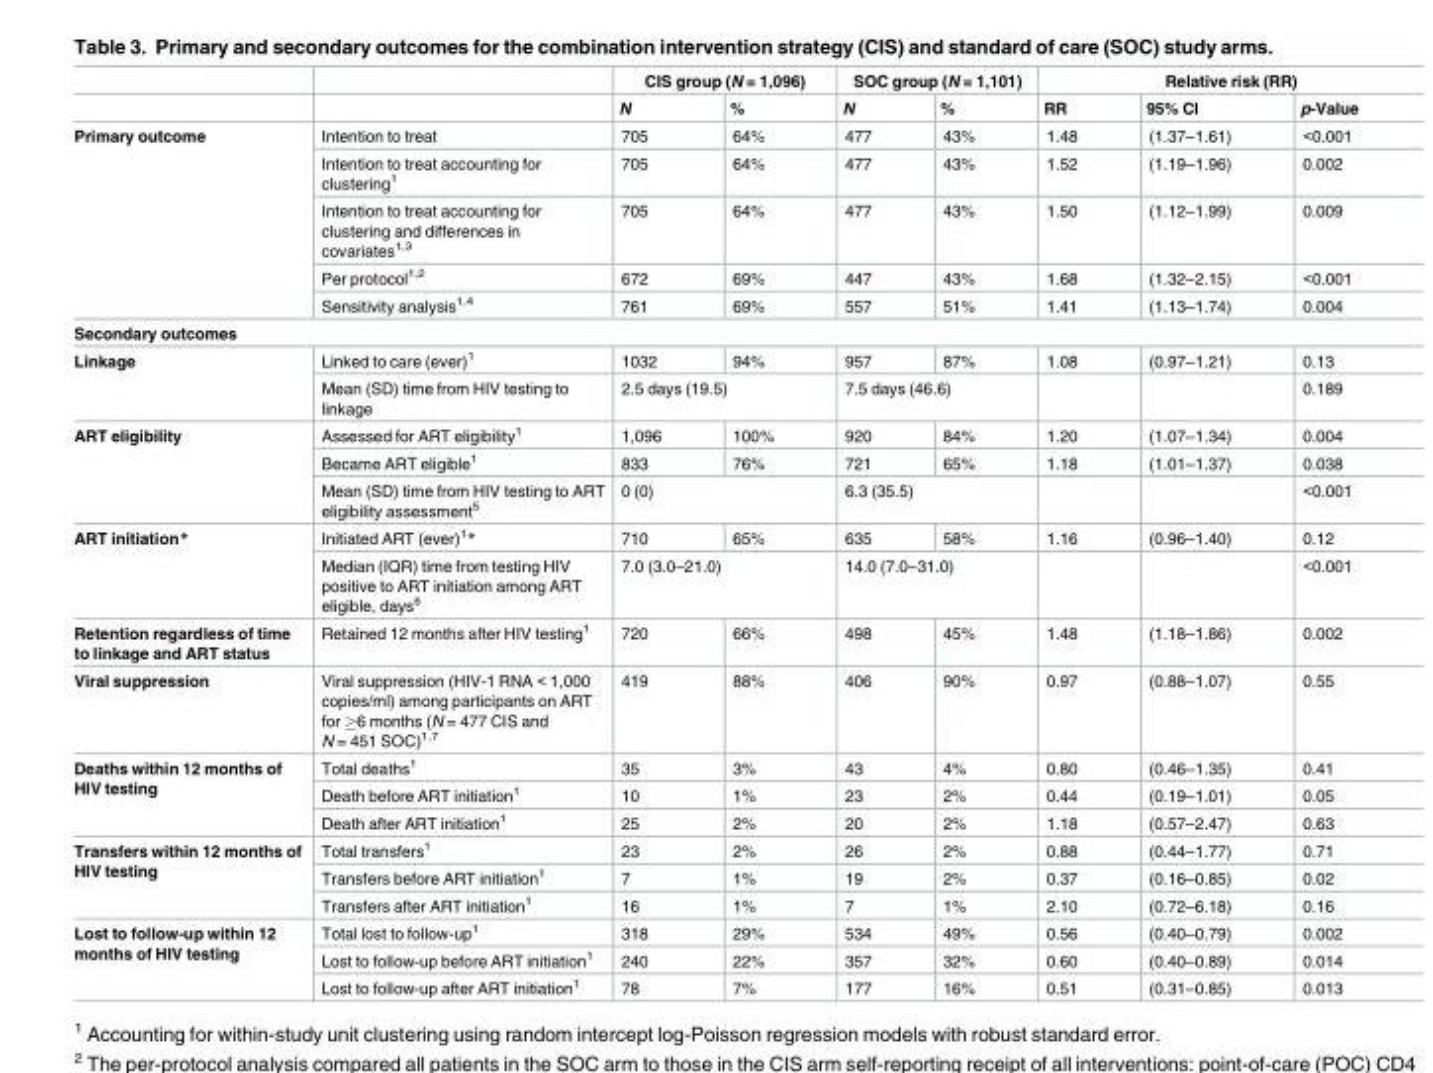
<table><thead><tr><td rowspan="2"></td><td rowspan="2"></td><td colspan="2">CIS group (N = 1,096)</td><td colspan="2">SOC group (N = 1,101)</td><td colspan="3">Relative risk (RR)</td></tr><tr><td>N</td><td>%</td><td>N</td><td>%</td><td>RR</td><td>95% CI</td><td>p-Value</td></tr></thead><tbody><tr><td rowspan="5">Primary outcome</td><td>Intention to treat</td><td>705</td><td>64%</td><td>477</td><td>43%</td><td>1.48</td><td>(1.37–1.61)</td><td>&lt;0.001</td></tr><tr><td>Intention to treat accounting for clustering<sup>1</sup></td><td>705</td><td>64%</td><td>477</td><td>43%</td><td>1.52</td><td>(1.19–1.96)</td><td>0.002</td></tr><tr><td>Intention to treat accounting for clustering and differences in covariates<sup>1,3</sup></td><td>705</td><td>64%</td><td>477</td><td>43%</td><td>1.50</td><td>(1.12–1.99)</td><td>0.009</td></tr><tr><td>Per protocol<sup>1,2</sup></td><td>672</td><td>69%</td><td>447</td><td>43%</td><td>1.68</td><td>(1.32–2.15)</td><td>&lt;0.001</td></tr><tr><td>Sensitivity analysis<sup>1,4</sup></td><td>761</td><td>69%</td><td>557</td><td>51%</td><td>1.41</td><td>(1.13–1.74)</td><td>0.004</td></tr><tr><td colspan="9">Secondary outcomes</td></tr><tr><td rowspan="2">Linkage</td><td>Linked to care (ever)<sup>1</sup></td><td>1032</td><td>94%</td><td>957</td><td>87%</td><td>1.08</td><td>(0.97–1.21)</td><td>0.13</td></tr><tr><td>Mean (SD) time from HIV testing to linkage</td><td colspan="2">2.5 days (19.5)</td><td colspan="2">7.5 days (46.6)</td><td></td><td></td><td>0.189</td></tr><tr><td rowspan="3">ART eligibility</td><td>Assessed for ART eligibility<sup>1</sup></td><td>1,096</td><td>100%</td><td>920</td><td>84%</td><td>1.20</td><td>(1.07–1.34)</td><td>0.004</td></tr><tr><td>Became ART eligible<sup>1</sup></td><td>833</td><td>76%</td><td>721</td><td>65%</td><td>1.18</td><td>(1.01–1.37)</td><td>0.038</td></tr><tr><td>Mean (SD) time from HIV testing to ART eligibility assessment<sup>5</sup></td><td colspan="2">0 (0)</td><td colspan="2">6.3 (35.5)</td><td></td><td></td><td>&lt;0.001</td></tr><tr><td rowspan="2">ART initiation*</td><td>Initiated ART (ever)<sup>1</sup>*</td><td>710</td><td>65%</td><td>635</td><td>58%</td><td>1.16</td><td>(0.96–1.40)</td><td>0.12</td></tr><tr><td>Median (IQR) time from testing HIV positive to ART initiation among ART eligible, days<sup>6</sup></td><td colspan="2">7.0 (3.0–21.0)</td><td colspan="2">14.0 (7.0–31.0)</td><td></td><td></td><td>&lt;0.001</td></tr><tr><td>Retention regardless of time to linkage and ART status</td><td>Retained 12 months after HIV testing<sup>1</sup></td><td>720</td><td>66%</td><td>498</td><td>45%</td><td>1.48</td><td>(1.18–1.86)</td><td>0.002</td></tr><tr><td>Viral suppression</td><td>Viral suppression (HIV-1 RNA &lt; 1,000 copies/ml) among participants on ART for ≥6 months (N = 477 CIS and N = 451 SOC)<sup>1,7</sup></td><td>419</td><td>88%</td><td>406</td><td>90%</td><td>0.97</td><td>(0.88–1.07)</td><td>0.55</td></tr><tr><td rowspan="3">Deaths within 12 months of HIV testing</td><td>Total deaths<sup>1</sup></td><td>35</td><td>3%</td><td>43</td><td>4%</td><td>0.80</td><td>(0.46–1.35)</td><td>0.41</td></tr><tr><td>Death before ART initiation<sup>1</sup></td><td>10</td><td>1%</td><td>23</td><td>2%</td><td>0.44</td><td>(0.19–1.01)</td><td>0.05</td></tr><tr><td>Death after ART initiation<sup>1</sup></td><td>25</td><td>2%</td><td>20</td><td>2%</td><td>1.18</td><td>(0.57–2.47)</td><td>0.63</td></tr><tr><td rowspan="3">Transfers within 12 months of HIV testing</td><td>Total transfers<sup>1</sup></td><td>23</td><td>2%</td><td>26</td><td>2%</td><td>0.88</td><td>(0.44–1.77)</td><td>0.71</td></tr><tr><td>Transfers before ART initiation<sup>1</sup></td><td>7</td><td>1%</td><td>19</td><td>2%</td><td>0.37</td><td>(0.16–0.85)</td><td>0.02</td></tr><tr><td>Transfers after ART initiation<sup>1</sup></td><td>16</td><td>1%</td><td>7</td><td>1%</td><td>2.10</td><td>(0.72–6.18)</td><td>0.16</td></tr><tr><td rowspan="3">Lost to follow-up within 12 months of HIV testing</td><td>Total lost to follow-up<sup>1</sup></td><td>318</td><td>29%</td><td>534</td><td>49%</td><td>0.56</td><td>(0.40–0.79)</td><td>0.002</td></tr><tr><td>Lost to follow-up before ART initiation<sup>1</sup></td><td>240</td><td>22%</td><td>357</td><td>32%</td><td>0.60</td><td>(0.40–0.89)</td><td>0.014</td></tr><tr><td>Lost to follow-up after ART initiation<sup>1</sup></td><td>78</td><td>7%</td><td>177</td><td>16%</td><td>0.51</td><td>(0.31–0.85)</td><td>0.013</td></tr></tbody></table>